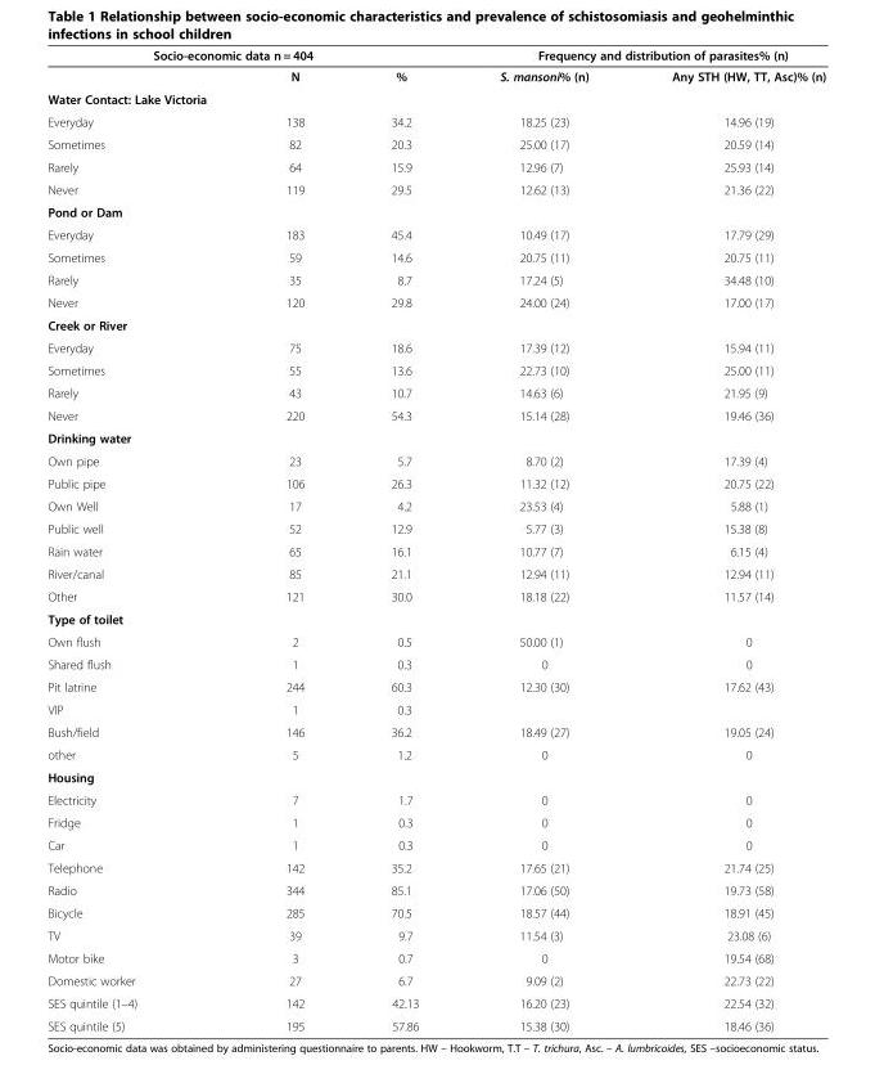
<table><thead><tr><td colspan="3">Socio-economic data n = 404</td><td colspan="2">Frequency and distribution of parasites% (n)</td></tr><tr><td></td><td>N</td><td>%</td><td>S. mansoni% (n)</td><td>Any STH (HW, TT, Asc)% (n)</td></tr></thead><tbody><tr><td colspan="5">Water Contact: Lake Victoria</td></tr><tr><td>Everyday</td><td>138</td><td>34.2</td><td>18.25 (23)</td><td>14.96 (19)</td></tr><tr><td>Sometimes</td><td>82</td><td>20.3</td><td>25.00 (17)</td><td>20.59 (14)</td></tr><tr><td>Rarely</td><td>64</td><td>15.9</td><td>12.96 (7)</td><td>25.93 (14)</td></tr><tr><td>Never</td><td>119</td><td>29.5</td><td>12.62 (13)</td><td>21.36 (22)</td></tr><tr><td colspan="5">Pond or Dam</td></tr><tr><td>Everyday</td><td>183</td><td>45.4</td><td>10.49 (17)</td><td>17.79 (29)</td></tr><tr><td>Sometimes</td><td>59</td><td>14.6</td><td>20.75 (11)</td><td>20.75 (11)</td></tr><tr><td>Rarely</td><td>35</td><td>8.7</td><td>17.24 (5)</td><td>34.48 (10)</td></tr><tr><td>Never</td><td>120</td><td>29.8</td><td>24.00 (24)</td><td>17.00 (17)</td></tr><tr><td colspan="5">Creek or River</td></tr><tr><td>Everyday</td><td>75</td><td>18.6</td><td>17.39 (12)</td><td>15.94 (11)</td></tr><tr><td>Sometimes</td><td>55</td><td>13.6</td><td>22.73 (10)</td><td>25.00 (11)</td></tr><tr><td>Rarely</td><td>43</td><td>10.7</td><td>14.63 (6)</td><td>21.95 (9)</td></tr><tr><td>Never</td><td>220</td><td>54.3</td><td>15.14 (28)</td><td>19.46 (36)</td></tr><tr><td colspan="5">Drinking water</td></tr><tr><td>Own pipe</td><td>23</td><td>5.7</td><td>8.70 (2)</td><td>17.39 (4)</td></tr><tr><td>Public pipe</td><td>106</td><td>26.3</td><td>11.32 (12)</td><td>20.75 (22)</td></tr><tr><td>Own Well</td><td>17</td><td>4.2</td><td>23.53 (4)</td><td>5.88 (1)</td></tr><tr><td>Public well</td><td>52</td><td>12.9</td><td>5.77 (3)</td><td>15.38 (8)</td></tr><tr><td>Rain water</td><td>65</td><td>16.1</td><td>10.77 (7)</td><td>6.15 (4)</td></tr><tr><td>River/canal</td><td>85</td><td>21.1</td><td>12.94 (11)</td><td>12.94 (11)</td></tr><tr><td>Other</td><td>121</td><td>30.0</td><td>18.18 (22)</td><td>11.57 (14)</td></tr><tr><td colspan="5">Type of toilet</td></tr><tr><td>Own flush</td><td>2</td><td>0.5</td><td>50.00 (1)</td><td>0</td></tr><tr><td>Shared flush</td><td>1</td><td>0.3</td><td>0</td><td>0</td></tr><tr><td>Pit latrine</td><td>244</td><td>60.3</td><td>12.30 (30)</td><td>17.62 (43)</td></tr><tr><td>VIP</td><td>1</td><td>0.3</td><td></td><td></td></tr><tr><td>Bush/field</td><td>146</td><td>36.2</td><td>18.49 (27)</td><td>19.05 (24)</td></tr><tr><td>other</td><td>5</td><td>1.2</td><td>0</td><td>0</td></tr><tr><td colspan="5">Housing</td></tr><tr><td>Electricity</td><td>7</td><td>1.7</td><td>0</td><td>0</td></tr><tr><td>Fridge</td><td>1</td><td>0.3</td><td>0</td><td>0</td></tr><tr><td>Car</td><td>1</td><td>0.3</td><td>0</td><td>0</td></tr><tr><td>Telephone</td><td>142</td><td>35.2</td><td>17.65 (21)</td><td>21.74 (25)</td></tr><tr><td>Radio</td><td>344</td><td>85.1</td><td>17.06 (50)</td><td>19.73 (58)</td></tr><tr><td>Bicycle</td><td>285</td><td>70.5</td><td>18.57 (44)</td><td>18.91 (45)</td></tr><tr><td>TV</td><td>39</td><td>9.7</td><td>11.54 (3)</td><td>23.08 (6)</td></tr><tr><td>Motor bike</td><td>3</td><td>0.7</td><td>0</td><td>19.54 (68)</td></tr><tr><td>Domestic worker</td><td>27</td><td>6.7</td><td>9.09 (2)</td><td>22.73 (22)</td></tr><tr><td>SES quintile (1–4)</td><td>142</td><td>42.13</td><td>16.20 (23)</td><td>22.54 (32)</td></tr><tr><td>SES quintile (5)</td><td>195</td><td>57.86</td><td>15.38 (30)</td><td>18.46 (36)</td></tr></tbody></table>